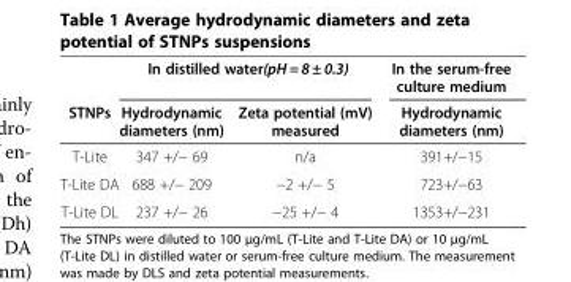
<table><thead><tr><td rowspan="2">STNPs</td><td colspan="2">In distilled water(pH = 8 ± 0.3)</td><td rowspan="2">In the serum-free culture medium Hydrodynamic diameters (nm)</td></tr><tr><td>Hydrodynamic diameters (nm)</td><td>Zeta potential (mV) measured</td></tr></thead><tbody><tr><td>T-Lite</td><td>347 +/− 69</td><td>n/a</td><td>391+/−15</td></tr><tr><td>T-Lite DA</td><td>688 +/− 209</td><td>−2 +/− 5</td><td>723+/−63</td></tr><tr><td>T-Lite DL</td><td>237 +/− 26</td><td>−25 +/− 4</td><td>1353+/−231</td></tr></tbody></table>